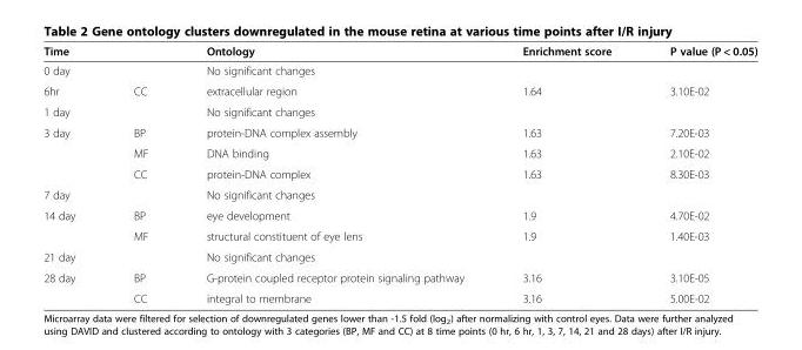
<table><thead><tr><td>Time</td><td></td><td>Ontology</td><td>Enrichment score</td><td>P value (P &lt; 0.05)</td></tr></thead><tbody><tr><td>0 day</td><td></td><td>No significant changes</td><td></td><td></td></tr><tr><td>6hr</td><td>CC</td><td>extracellular region</td><td>1.64</td><td>3.10E-02</td></tr><tr><td>1 day</td><td></td><td>No significant changes</td><td></td><td></td></tr><tr><td rowspan="3">3 day</td><td>BP</td><td>protein-DNA complex assembly</td><td>1.63</td><td>7.20E-03</td></tr><tr><td>MF</td><td>DNA binding</td><td>1.63</td><td>2.10E-02</td></tr><tr><td>CC</td><td>protein-DNA complex</td><td>1.63</td><td>8.30E-03</td></tr><tr><td>7 day</td><td></td><td>No significant changes</td><td></td><td></td></tr><tr><td rowspan="2">14 day</td><td>BP</td><td>eye development</td><td>1.9</td><td>4.70E-02</td></tr><tr><td>MF</td><td>structural constituent of eye lens</td><td>1.9</td><td>1.40E-03</td></tr><tr><td>21 day</td><td></td><td>No significant changes</td><td></td><td></td></tr><tr><td rowspan="2">28 day</td><td>BP</td><td>G-protein coupled receptor protein signaling pathway</td><td>3.16</td><td>3.10E-05</td></tr><tr><td>CC</td><td>integral to membrane</td><td>3.16</td><td>5.00E-02</td></tr></tbody></table>